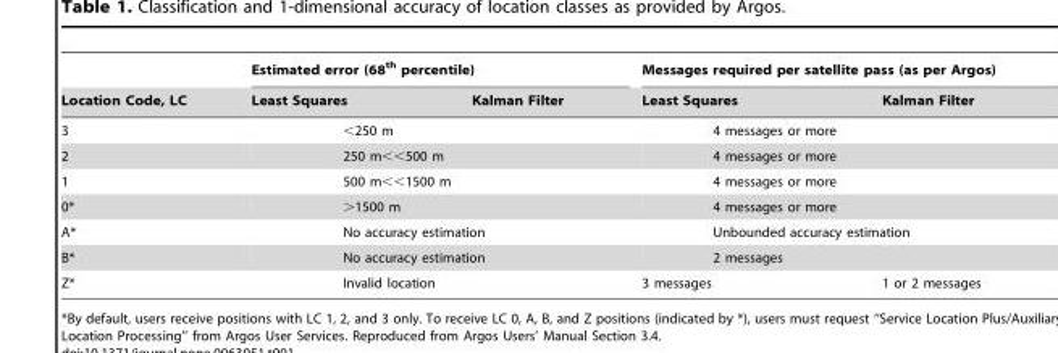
<table><thead><tr><td rowspan="2">Location Code, LC</td><td colspan="2">Estimated error (68<sup>th</sup> percentile)</td><td colspan="2">Messages required per satellite pass (as per Argos)</td></tr><tr><td>Least Squares</td><td>Kalman Filter</td><td>Least Squares</td><td>Kalman Filter</td></tr></thead><tbody><tr><td>3</td><td colspan="2">&lt;250 m</td><td colspan="2">4 messages or more</td></tr><tr><td>2</td><td colspan="2">250 m&lt;&lt;500 m</td><td colspan="2">4 messages or more</td></tr><tr><td>1</td><td colspan="2">500 m&lt;&lt;1500 m</td><td colspan="2">4 messages or more</td></tr><tr><td>0*</td><td colspan="2">&gt;1500 m</td><td colspan="2">4 messages or more</td></tr><tr><td>A*</td><td colspan="2">No accuracy estimation</td><td colspan="2">Unbounded accuracy estimation</td></tr><tr><td>B*</td><td colspan="2">No accuracy estimation</td><td colspan="2">2 messages</td></tr><tr><td>Z*</td><td colspan="2">Invalid location</td><td>3 messages</td><td>1 or 2 messages</td></tr></tbody></table>